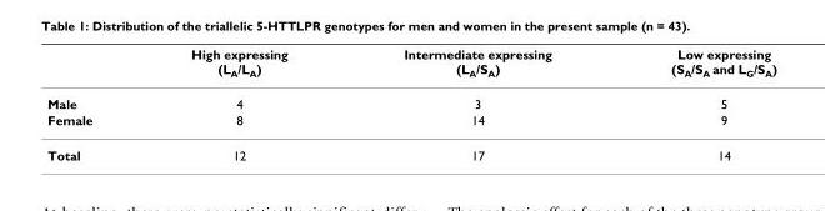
<table><thead><tr><td></td><td>High expressing (L<sub>A</sub>/L<sub>A</sub>)</td><td>Intermediate expressing (L<sub>A</sub>/S<sub>A</sub>)</td><td>Low expressing (S<sub>A</sub>/S<sub>A</sub> and L<sub>G</sub>/S<sub>A</sub>)</td></tr></thead><tbody><tr><td>Male</td><td>4</td><td>3</td><td>5</td></tr><tr><td>Female</td><td>8</td><td>14</td><td>9</td></tr><tr><td>Total</td><td>12</td><td>17</td><td>14</td></tr></tbody></table>